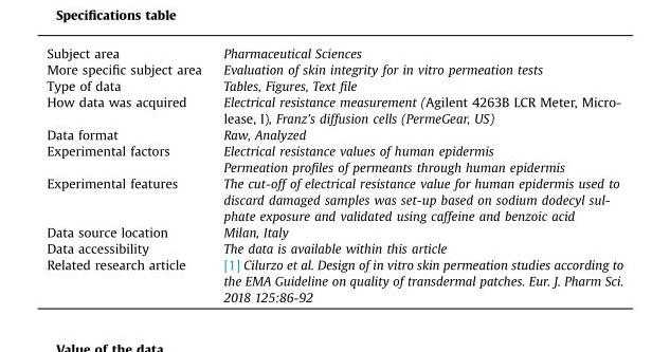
<table><thead><tr><td>Subject area</td><td>Pharmaceutical Sciences</td></tr></thead><tbody><tr><td>More specific subject area</td><td>Evaluation of skin integrity for in vitro permeation tests</td></tr><tr><td>Type of data</td><td>Tables, Figures, Text file</td></tr><tr><td>How data was acquired</td><td>Electrical resistance measurement (Agilent 4263B LCR Meter, Micro- lease, I), Franz’s diffusion cells (PermeGear, US)</td></tr><tr><td>Data format</td><td>Raw, Analyzed</td></tr><tr><td rowspan="2">Experimental factors</td><td>Electrical resistance values of human epidermis</td></tr><tr><td>Permeation profiles of permeants through human epidermis</td></tr><tr><td>Experimental features</td><td>The cut-off of electrical resistance value for human epidermis used to discard damaged samples was set-up based on sodium dodecyl sul- phate exposure and validated using caffeine and benzoic acid</td></tr><tr><td>Data source location</td><td>Milan, Italy</td></tr><tr><td>Data accessibility</td><td>The data is available within this article</td></tr><tr><td>Related research article</td><td>[1] Cilurzo et al. Design of in vitro skin permeation studies according to the EMA Guideline on quality of transdermal patches. Eur. J. Pharm Sci. 2018 125:86-92</td></tr></tbody></table>